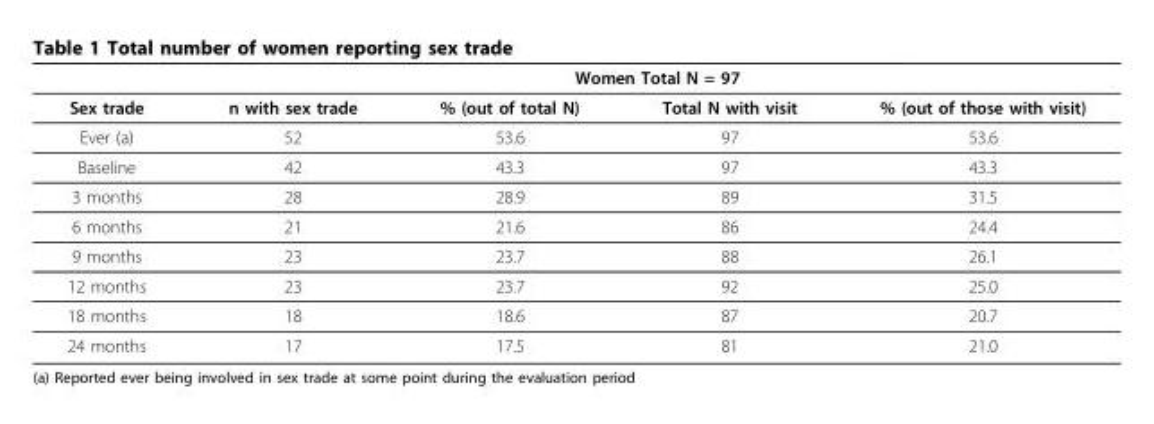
<table><thead><tr><td rowspan="2">Sex trade</td><td colspan="4">Women Total N = 97</td></tr><tr><td>n with sex trade</td><td>% (out of total N)</td><td>Total N with visit</td><td>% (out of those with visit)</td></tr></thead><tbody><tr><td>Ever (a)</td><td>52</td><td>53.6</td><td>97</td><td>53.6</td></tr><tr><td>Baseline</td><td>42</td><td>43.3</td><td>97</td><td>43.3</td></tr><tr><td>3 months</td><td>28</td><td>28.9</td><td>89</td><td>31.5</td></tr><tr><td>6 months</td><td>21</td><td>21.6</td><td>86</td><td>24.4</td></tr><tr><td>9 months</td><td>23</td><td>23.7</td><td>88</td><td>26.1</td></tr><tr><td>12 months</td><td>23</td><td>23.7</td><td>92</td><td>25.0</td></tr><tr><td>18 months</td><td>18</td><td>18.6</td><td>87</td><td>20.7</td></tr><tr><td>24 months</td><td>17</td><td>17.5</td><td>81</td><td>21.0</td></tr></tbody></table>